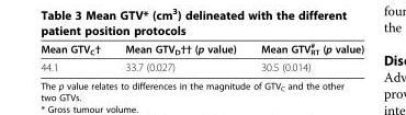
<table><thead><tr><td>Mean GTV<sub>C</sub>†</td><td>Mean GTV<sub>D</sub>†† (p value)</td><td>Mean GTV<sub>RT</sub> <sup>#</sup> (p value)</td></tr></thead><tbody><tr><td>44.1</td><td>33.7 (0.027)</td><td>30.5 (0.014)</td></tr></tbody></table>